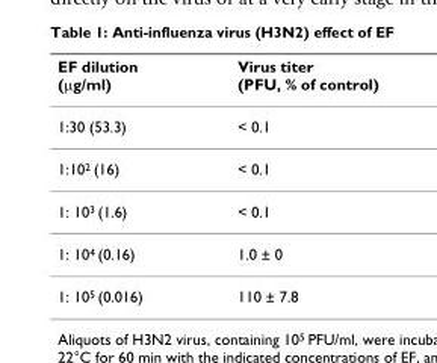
<table><thead><tr><td>EF dilution (μg/ml)</td><td>Virus titer (PFU, % of control)</td></tr></thead><tbody><tr><td>1:30 (53.3)</td><td>&lt; 0.1</td></tr><tr><td>1:10<sup>2</sup> (16)</td><td>&lt; 0.1</td></tr><tr><td>1: 10<sup>3</sup> (1.6)</td><td>&lt; 0.1</td></tr><tr><td>1: 10<sup>4</sup> (0.16)</td><td>1.0 ± 0</td></tr><tr><td>1: 10<sup>5</sup> (0.016)</td><td>110 ± 7.8</td></tr></tbody></table>